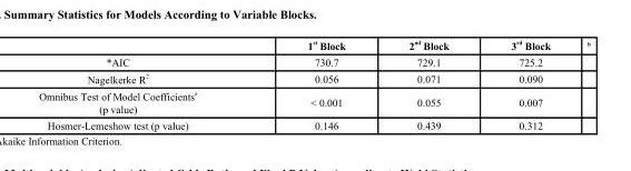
<table><thead><tr><td></td><td>1 <sup>st</sup> Block</td><td>2 <sup>nd</sup> Block</td><td>3 <sup>rd</sup> Block</td><td><sup>b</sup></td></tr></thead><tbody><tr><td>*AIC</td><td>730.7</td><td>729.1</td><td>725.2</td><td></td></tr><tr><td>Nagelkerke R <sup>2</sup></td><td>0.056</td><td>0.071</td><td>0.090</td><td></td></tr><tr><td>Omnibus Test of Model Coefficients <sup>a</sup> (p value)</td><td>&lt; 0.001</td><td>0.055</td><td>0.007</td><td></td></tr><tr><td>Hosmer-Lemeshow test (p value)</td><td>0.146</td><td>0.439</td><td>0.312</td><td></td></tr></tbody></table>